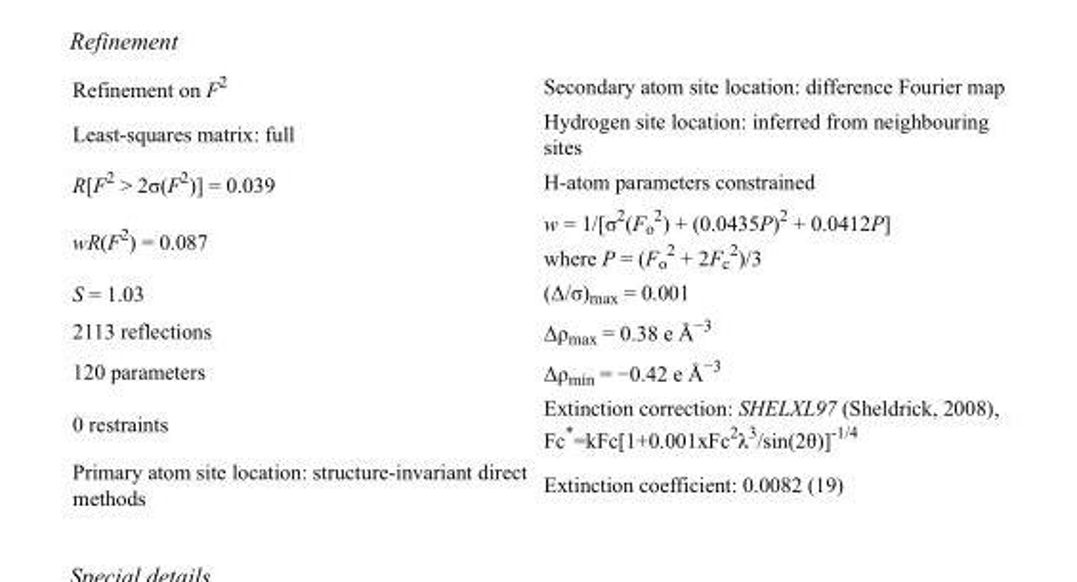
<table><tbody><tr><td>Refinement on F<sup>2</sup></td><td>Secondary atom site location: difference Fourier map</td></tr><tr><td>Least-squares matrix: full</td><td>Hydrogen site location: inferred from neighbouring sites</td></tr><tr><td>R[F<sup>2</sup> &gt; 2σ(F<sup>2</sup>)] = 0.039</td><td>H-atom parameters constrained</td></tr><tr><td>wR(F<sup>2</sup>) = 0.087</td><td>w = 1/[σ<sup>2</sup>(F<sub>o</sub> <sup>2</sup>) + (0.0435P)<sup>2</sup> + 0.0412P] where P = (F<sub>o</sub> <sup>2</sup> + 2F<sub>c</sub> <sup>2</sup>)/3</td></tr><tr><td>S = 1.03</td><td>(Δ/σ)<sub>max</sub> = 0.001</td></tr><tr><td>2113 reflections</td><td>Δρ<sub>max</sub> = 0.38 e Å<sup>−3</sup></td></tr><tr><td>120 parameters</td><td>Δρ<sub>min</sub> = −0.42 e Å<sup>−3</sup></td></tr><tr><td>0 restraints</td><td>Extinction correction: SHELXL97 (Sheldrick, 2008), Fc*=kFc[1+0.001xFc<sup>2</sup>λ<sup>3</sup>/sin(2θ)]<sup>-1/4</sup></td></tr><tr><td>Primary atom site location: structure-invariant direct methods</td><td>Extinction coefficient: 0.0082 (19)</td></tr></tbody></table>